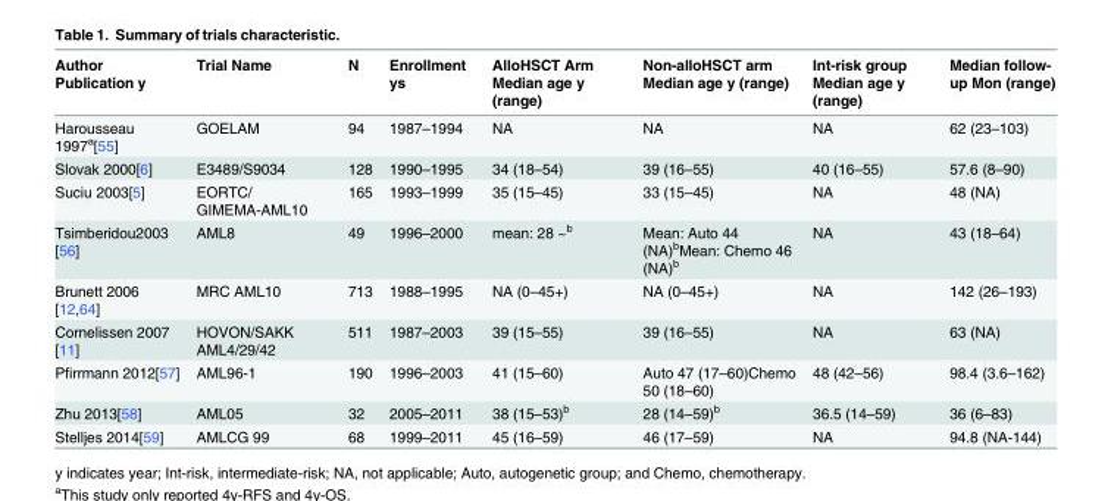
<table><thead><tr><td>Author Publication y</td><td>Trial Name</td><td>N</td><td>Enrollment ys</td><td>AlloHSCT Arm Median age y (range)</td><td>Non-alloHSCT arm Median age y (range)</td><td>Int-risk group Median age y (range)</td><td>Median follow- up Mon (range)</td></tr></thead><tbody><tr><td>Harousseau 1997<sup>a</sup>[55]</td><td>GOELAM</td><td>94</td><td>1987–1994</td><td>NA</td><td>NA</td><td>NA</td><td>62 (23–103)</td></tr><tr><td>Slovak 2000[6]</td><td>E3489/S9034</td><td>128</td><td>1990–1995</td><td>34 (18–54)</td><td>39 (16–55)</td><td>40 (16–55)</td><td>57.6 (8–90)</td></tr><tr><td>Suciu 2003[5]</td><td>EORTC/ GIMEMA-AML10</td><td>165</td><td>1993–1999</td><td>35 (15–45)</td><td>33 (15–45)</td><td>NA</td><td>48 (NA)</td></tr><tr><td>Tsimberidou2003 [56]</td><td>AML8</td><td>49</td><td>1996–2000</td><td>mean: 28 ~<sup>b</sup></td><td>Mean: Auto 44 (NA)<sup>b</sup>Mean: Chemo 46 (NA)<sup>b</sup></td><td>NA</td><td>43 (18–64)</td></tr><tr><td>Brunett 2006 [12,64]</td><td>MRC AML10</td><td>713</td><td>1988–1995</td><td>NA (0–45+)</td><td>NA (0–45+)</td><td>NA</td><td>142 (26–193)</td></tr><tr><td>Cornelissen 2007 [11]</td><td>HOVON/SAKK AML4/29/42</td><td>511</td><td>1987–2003</td><td>39 (15–55)</td><td>39 (16–55)</td><td>NA</td><td>63 (NA)</td></tr><tr><td>Pfirrmann 2012[57]</td><td>AML96-1</td><td>190</td><td>1996–2003</td><td>41 (15–60)</td><td>Auto 47 (17–60)Chemo 50 (18–60)</td><td>48 (42–56)</td><td>98.4 (3.6–162)</td></tr><tr><td>Zhu 2013[58]</td><td>AML05</td><td>32</td><td>2005–2011</td><td>38 (15–53)<sup>b</sup></td><td>28 (14–59)<sup>b</sup></td><td>36.5 (14–59)</td><td>36 (6–83)</td></tr><tr><td>Stelljes 2014[59]</td><td>AMLCG 99</td><td>68</td><td>1999–2011</td><td>45 (16–59)</td><td>46 (17–59)</td><td>NA</td><td>94.8 (NA-144)</td></tr></tbody></table>